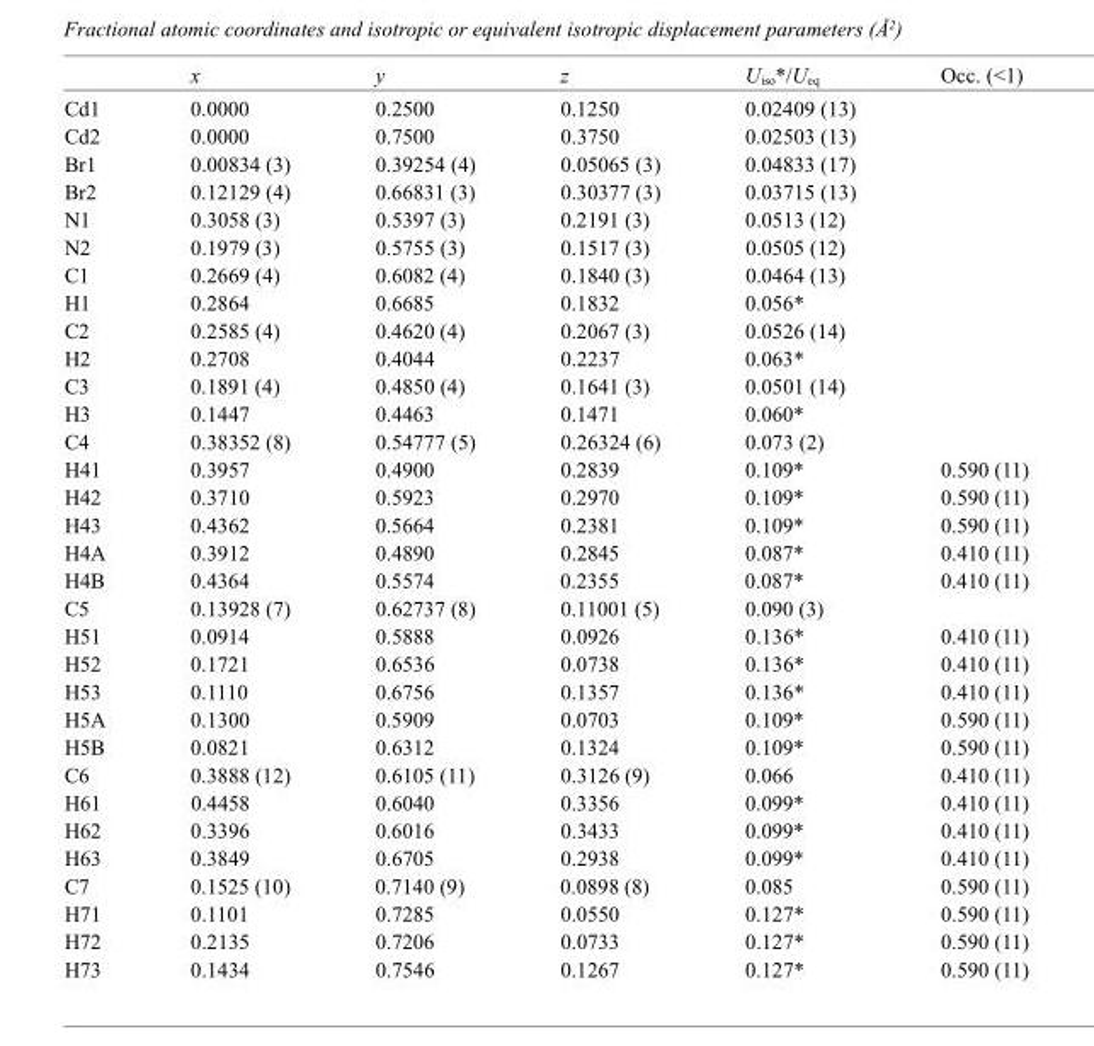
<table><thead><tr><td></td><td>x</td><td>y</td><td>z</td><td>U<sub>iso</sub>*/U<sub>eq</sub></td><td>Occ. (&lt;1)</td></tr></thead><tbody><tr><td>Cd1</td><td>0.0000</td><td>0.2500</td><td>0.1250</td><td>0.02409 (13)</td><td></td></tr><tr><td>Cd2</td><td>0.0000</td><td>0.7500</td><td>0.3750</td><td>0.02503 (13)</td><td></td></tr><tr><td>Br1</td><td>0.00834 (3)</td><td>0.39254 (4)</td><td>0.05065 (3)</td><td>0.04833 (17)</td><td></td></tr><tr><td>Br2</td><td>0.12129 (4)</td><td>0.66831 (3)</td><td>0.30377 (3)</td><td>0.03715 (13)</td><td></td></tr><tr><td>N1</td><td>0.3058 (3)</td><td>0.5397 (3)</td><td>0.2191 (3)</td><td>0.0513 (12)</td><td></td></tr><tr><td>N2</td><td>0.1979 (3)</td><td>0.5755 (3)</td><td>0.1517 (3)</td><td>0.0505 (12)</td><td></td></tr><tr><td>C1</td><td>0.2669 (4)</td><td>0.6082 (4)</td><td>0.1840 (3)</td><td>0.0464 (13)</td><td></td></tr><tr><td>H1</td><td>0.2864</td><td>0.6685</td><td>0.1832</td><td>0.056*</td><td></td></tr><tr><td>C2</td><td>0.2585 (4)</td><td>0.4620 (4)</td><td>0.2067 (3)</td><td>0.0526 (14)</td><td></td></tr><tr><td>H2</td><td>0.2708</td><td>0.4044</td><td>0.2237</td><td>0.063*</td><td></td></tr><tr><td>C3</td><td>0.1891 (4)</td><td>0.4850 (4)</td><td>0.1641 (3)</td><td>0.0501 (14)</td><td></td></tr><tr><td>H3</td><td>0.1447</td><td>0.4463</td><td>0.1471</td><td>0.060*</td><td></td></tr><tr><td>C4</td><td>0.38352 (8)</td><td>0.54777 (5)</td><td>0.26324 (6)</td><td>0.073 (2)</td><td></td></tr><tr><td>H41</td><td>0.3957</td><td>0.4900</td><td>0.2839</td><td>0.109*</td><td>0.590 (11)</td></tr><tr><td>H42</td><td>0.3710</td><td>0.5923</td><td>0.2970</td><td>0.109*</td><td>0.590 (11)</td></tr><tr><td>H43</td><td>0.4362</td><td>0.5664</td><td>0.2381</td><td>0.109*</td><td>0.590 (11)</td></tr><tr><td>H4A</td><td>0.3912</td><td>0.4890</td><td>0.2845</td><td>0.087*</td><td>0.410 (11)</td></tr><tr><td>H4B</td><td>0.4364</td><td>0.5574</td><td>0.2355</td><td>0.087*</td><td>0.410 (11)</td></tr><tr><td>C5</td><td>0.13928 (7)</td><td>0.62737 (8)</td><td>0.11001 (5)</td><td>0.090 (3)</td><td></td></tr><tr><td>H51</td><td>0.0914</td><td>0.5888</td><td>0.0926</td><td>0.136*</td><td>0.410 (11)</td></tr><tr><td>H52</td><td>0.1721</td><td>0.6536</td><td>0.0738</td><td>0.136*</td><td>0.410 (11)</td></tr><tr><td>H53</td><td>0.1110</td><td>0.6756</td><td>0.1357</td><td>0.136*</td><td>0.410 (11)</td></tr><tr><td>H5A</td><td>0.1300</td><td>0.5909</td><td>0.0703</td><td>0.109*</td><td>0.590 (11)</td></tr><tr><td>H5B</td><td>0.0821</td><td>0.6312</td><td>0.1324</td><td>0.109*</td><td>0.590 (11)</td></tr><tr><td>C6</td><td>0.3888 (12)</td><td>0.6105 (11)</td><td>0.3126 (9)</td><td>0.066</td><td>0.410 (11)</td></tr><tr><td>H61</td><td>0.4458</td><td>0.6040</td><td>0.3356</td><td>0.099*</td><td>0.410 (11)</td></tr><tr><td>H62</td><td>0.3396</td><td>0.6016</td><td>0.3433</td><td>0.099*</td><td>0.410 (11)</td></tr><tr><td>H63</td><td>0.3849</td><td>0.6705</td><td>0.2938</td><td>0.099*</td><td>0.410 (11)</td></tr><tr><td>C7</td><td>0.1525 (10)</td><td>0.7140 (9)</td><td>0.0898 (8)</td><td>0.085</td><td>0.590 (11)</td></tr><tr><td>H71</td><td>0.1101</td><td>0.7285</td><td>0.0550</td><td>0.127*</td><td>0.590 (11)</td></tr><tr><td>H72</td><td>0.2135</td><td>0.7206</td><td>0.0733</td><td>0.127*</td><td>0.590 (11)</td></tr><tr><td>H73</td><td>0.1434</td><td>0.7546</td><td>0.1267</td><td>0.127*</td><td>0.590 (11)</td></tr></tbody></table>